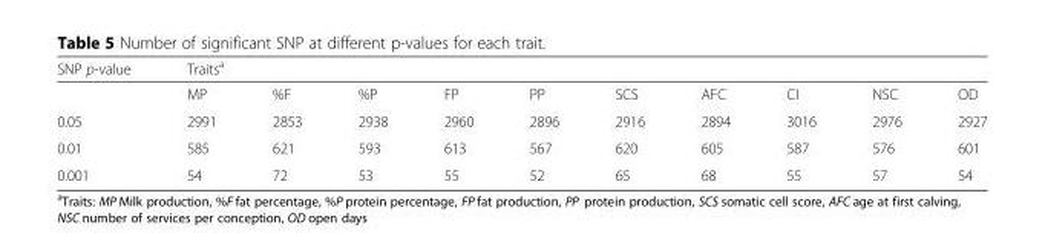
<table><thead><tr><td rowspan="2">SNP p-value</td><td colspan="10">Traits<sup>a</sup></td></tr><tr><td>MP</td><td>%F</td><td>%P</td><td>FP</td><td>PP</td><td>SCS</td><td>AFC</td><td>CI</td><td>NSC</td><td>OD</td></tr></thead><tbody><tr><td>0.05</td><td>2991</td><td>2853</td><td>2938</td><td>2960</td><td>2896</td><td>2916</td><td>2894</td><td>3016</td><td>2976</td><td>2927</td></tr><tr><td>0.01</td><td>585</td><td>621</td><td>593</td><td>613</td><td>567</td><td>620</td><td>605</td><td>587</td><td>576</td><td>601</td></tr><tr><td>0.001</td><td>54</td><td>72</td><td>53</td><td>55</td><td>52</td><td>65</td><td>68</td><td>55</td><td>57</td><td>54</td></tr></tbody></table>